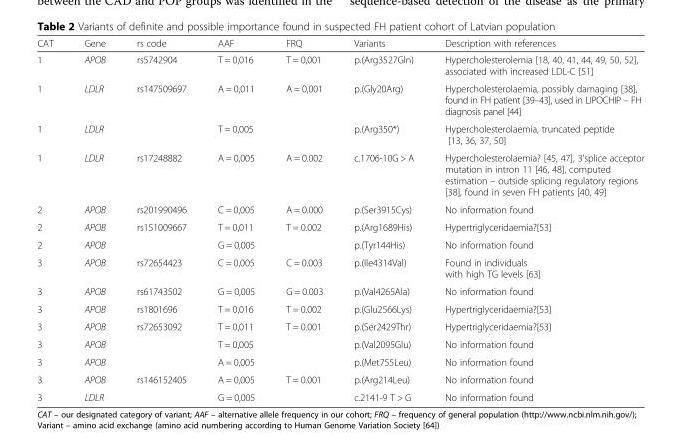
<table><thead><tr><td>CAT</td><td>Gene</td><td>rs code</td><td>AAF</td><td>FRQ</td><td>Variants</td><td>Description with references</td></tr></thead><tbody><tr><td>1</td><td>APOB</td><td>rs5742904</td><td>T = 0,016</td><td>T = 0,001</td><td>p.(Arg3527Gln)</td><td>Hypercholesterolemia [18, 40, 41, 44, 49, 50, 52], associated with increased LDL-C [51]</td></tr><tr><td>1</td><td>LDLR</td><td>rs147509697</td><td>A = 0,011</td><td>A = 0,001</td><td>p.(Gly20Arg)</td><td>Hypercholesterolaemia, possibly damaging [38], found in FH patient [39–43], used in LIPOCHIP – FH diagnosis panel [44]</td></tr><tr><td>1</td><td>LDLR</td><td></td><td>T = 0,005</td><td></td><td>p.(Arg350*)</td><td>Hypercholesterolaemia, truncated peptide [13, 36, 37, 50]</td></tr><tr><td>1</td><td>LDLR</td><td>rs17248882</td><td>A = 0,005</td><td>A = 0.002</td><td>c.1706-10G &gt; A</td><td>Hypercholesterolaemia? [45, 47], 3’splice acceptor mutation in intron 11 [46, 48], computed estimation – outside splicing regulatory regions [38], found in seven FH patients [40, 49]</td></tr><tr><td>2</td><td>APOB</td><td>rs201990496</td><td>C = 0,005</td><td>A = 0.000</td><td>p.(Ser3915Cys)</td><td>No information found</td></tr><tr><td>2</td><td>APOB</td><td>rs151009667</td><td>T = 0,011</td><td>T = 0.002</td><td>p.(Arg1689His)</td><td>Hypertriglyceridaemia?[53]</td></tr><tr><td>2</td><td>APOB</td><td></td><td>G = 0,005</td><td></td><td>p.(Tyr144His)</td><td>No information found</td></tr><tr><td>3</td><td>APOB</td><td>rs72654423</td><td>C = 0,005</td><td>C = 0.003</td><td>p.(Ile4314Val)</td><td>Found in individuals with high TG levels [63]</td></tr><tr><td>3</td><td>APOB</td><td>rs61743502</td><td>G = 0,005</td><td>G = 0.003</td><td>p.(Val4265Ala)</td><td>No information found</td></tr><tr><td>3</td><td>APOB</td><td>rs1801696</td><td>T = 0,016</td><td>T = 0.002</td><td>p.(Glu2566Lys)</td><td>Hypertriglyceridaemia?[53]</td></tr><tr><td>3</td><td>APOB</td><td>rs72653092</td><td>T = 0,011</td><td>T = 0.001</td><td>p.(Ser2429Thr)</td><td>Hypertriglyceridaemia?[53]</td></tr><tr><td>3</td><td>APOB</td><td></td><td>T = 0,005</td><td></td><td>p.(Val2095Glu)</td><td>No information found</td></tr><tr><td>3</td><td>APOB</td><td></td><td>A = 0,005</td><td></td><td>p.(Met755Leu)</td><td>No information found</td></tr><tr><td>3</td><td>APOB</td><td>rs146152405</td><td>A = 0,005</td><td>T = 0.001</td><td>p.(Arg214Leu)</td><td>No information found</td></tr><tr><td>3</td><td>LDLR</td><td></td><td>G = 0,005</td><td></td><td>c.2141-9 T &gt; G</td><td>No information found</td></tr></tbody></table>